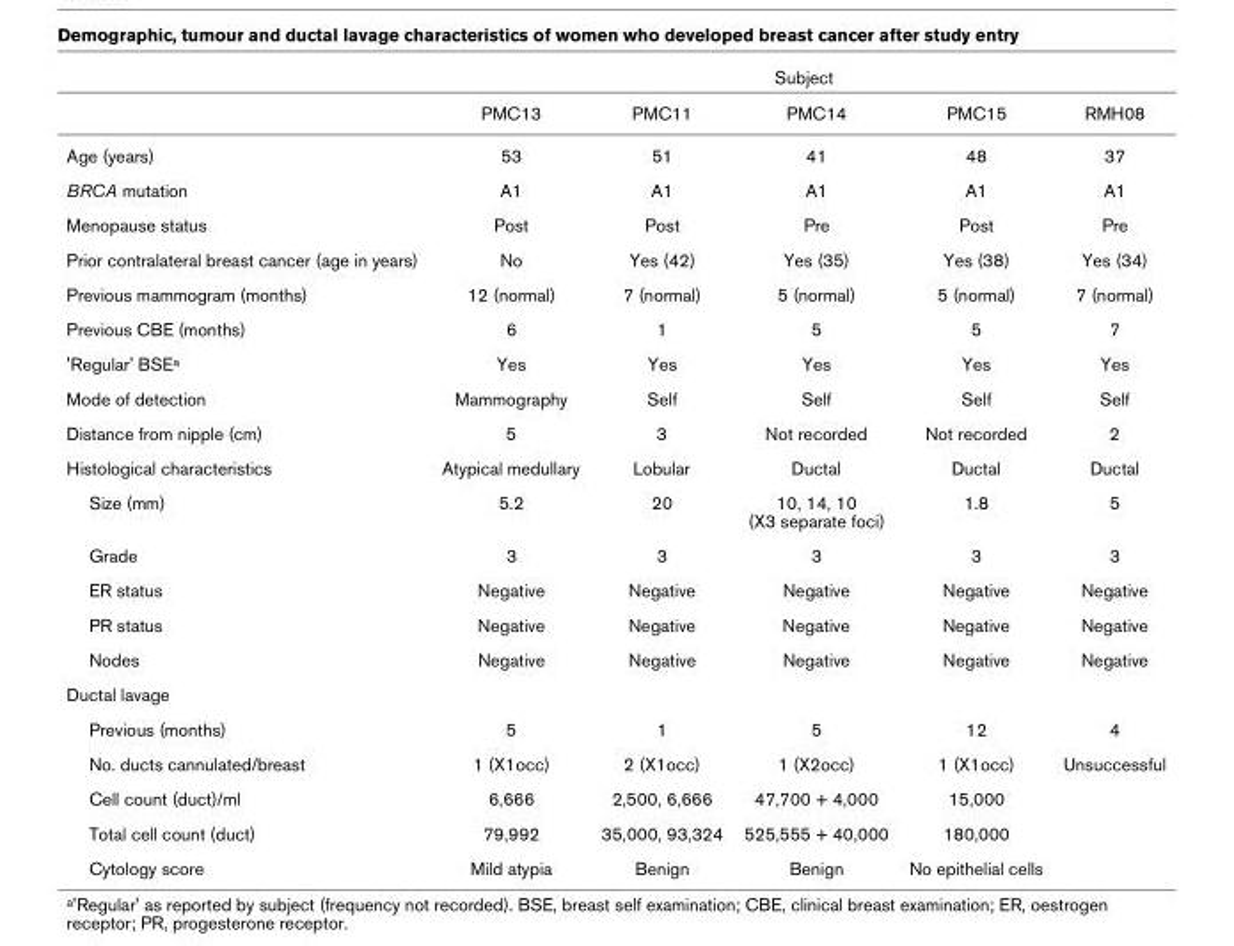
<table><thead><tr><td rowspan="2"></td><td colspan="5">Subject</td></tr><tr><td>PMC13</td><td>PMC11</td><td>PMC14</td><td>PMC15</td><td>RMH08</td></tr></thead><tbody><tr><td>Age (years)</td><td>53</td><td>51</td><td>41</td><td>48</td><td>37</td></tr><tr><td>BRCA mutation</td><td>A1</td><td>A1</td><td>A1</td><td>A1</td><td>A1</td></tr><tr><td>Menopause status</td><td>Post</td><td>Post</td><td>Pre</td><td>Post</td><td>Pre</td></tr><tr><td>Prior contralateral breast cancer (age in years)</td><td>No</td><td>Yes (42)</td><td>Yes (35)</td><td>Yes (38)</td><td>Yes (34)</td></tr><tr><td>Previous mammogram (months)</td><td>12 (normal)</td><td>7 (normal)</td><td>5 (normal)</td><td>5 (normal)</td><td>7 (normal)</td></tr><tr><td>Previous CBE (months)</td><td>6</td><td>1</td><td>5</td><td>5</td><td>7</td></tr><tr><td>&#x27;Regular&#x27; BSEa</td><td>Yes</td><td>Yes</td><td>Yes</td><td>Yes</td><td>Yes</td></tr><tr><td>Mode of detection</td><td>Mammography</td><td>Self</td><td>Self</td><td>Self</td><td>Self</td></tr><tr><td>Distance from nipple (cm)</td><td>5</td><td>3</td><td>Not recorded</td><td>Not recorded</td><td>2</td></tr><tr><td>Histological characteristics</td><td>Atypical medullary</td><td>Lobular</td><td>Ductal</td><td>Ductal</td><td>Ductal</td></tr><tr><td>Size (mm)</td><td>5.2</td><td>20</td><td>10, 14, 10 (X3 separate foci)</td><td>1.8</td><td>5</td></tr><tr><td>Grade</td><td>3</td><td>3</td><td>3</td><td>3</td><td>3</td></tr><tr><td>ER status</td><td>Negative</td><td>Negative</td><td>Negative</td><td>Negative</td><td>Negative</td></tr><tr><td>PR status</td><td>Negative</td><td>Negative</td><td>Negative</td><td>Negative</td><td>Negative</td></tr><tr><td>Nodes</td><td>Negative</td><td>Negative</td><td>Negative</td><td>Negative</td><td>Negative</td></tr><tr><td colspan="6">Ductal lavage</td></tr><tr><td>Previous (months)</td><td>5</td><td>1</td><td>5</td><td>12</td><td>4</td></tr><tr><td>No. ducts cannulated/breast</td><td>1 (X1occ)</td><td>2 (X1occ)</td><td>1 (X2occ)</td><td>1 (X1occ)</td><td>Unsuccessful</td></tr><tr><td>Cell count (duct)/ml</td><td>6,666</td><td>2,500, 6,666</td><td>47,700 + 4,000</td><td>15,000</td><td></td></tr><tr><td>Total cell count (duct)</td><td>79,992</td><td>35,000, 93,324</td><td>525,555 + 40,000</td><td>180,000</td><td></td></tr><tr><td>Cytology score</td><td>Mild atypia</td><td>Benign</td><td>Benign</td><td>No epithelial cells</td><td></td></tr></tbody></table>